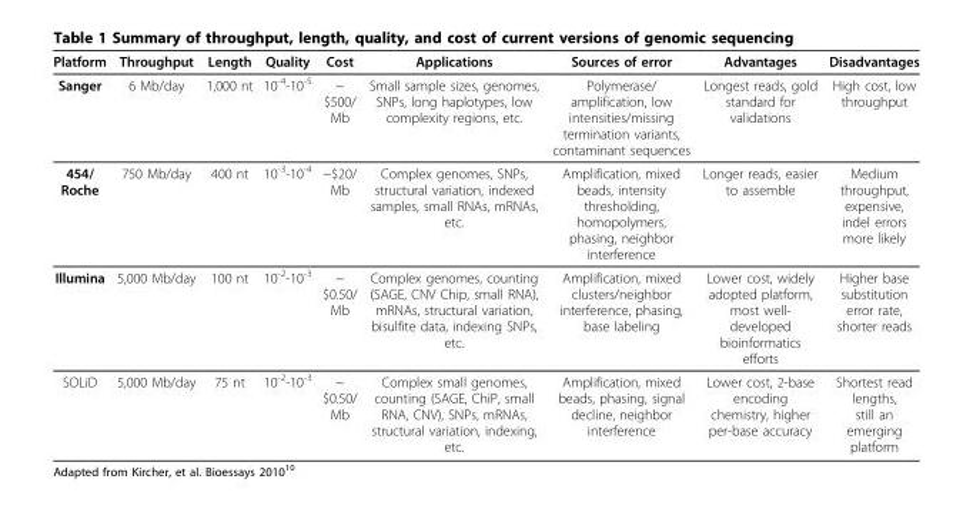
<table><thead><tr><td>Platform</td><td>Throughput</td><td>Length</td><td>Quality</td><td>Cost</td><td>Applications</td><td>Sources of error</td><td>Advantages</td><td>Disadvantages</td></tr></thead><tbody><tr><td>Sanger</td><td>6 Mb/day</td><td>1,000 nt</td><td>10<sup>-4</sup>-10<sup>-5</sup></td><td>~ $500/ Mb</td><td>Small sample sizes, genomes, SNPs, long haplotypes, low complexity regions, etc.</td><td>Polymerase/ amplification, low intensities/missing termination variants, contaminant sequences</td><td>Longest reads, gold standard for validations</td><td>High cost, low throughput</td></tr><tr><td>454/ Roche</td><td>750 Mb/day</td><td>400 nt</td><td>10<sup>-3</sup>-10<sup>-4</sup></td><td>~$20/ Mb</td><td>Complex genomes, SNPs, structural variation, indexed samples, small RNAs, mRNAs, etc.</td><td>Amplification, mixed beads, intensity thresholding, homopolymers, phasing, neighbor interference</td><td>Longer reads, easier to assemble</td><td>Medium throughput, expensive, indel errors more likely</td></tr><tr><td>Illumina</td><td>5,000 Mb/day</td><td>100 nt</td><td>10<sup>-2</sup>-10<sup>-3</sup></td><td>~ $0.50/ Mb</td><td>Complex genomes, counting (SAGE, CNV Chip, small RNA), mRNAs, structural variation, bisulfite data, indexing SNPs, etc.</td><td>Amplification, mixed clusters/neighbor interference, phasing, base labeling</td><td>Lower cost, widely adopted platform, most well- developed bioinformatics efforts</td><td>Higher base substitution error rate, shorter reads</td></tr><tr><td>SOLiD</td><td>5,000 Mb/day</td><td>75 nt</td><td>10<sup>-2</sup>-10<sup>-3</sup></td><td>~ $0.50/ Mb</td><td>Complex small genomes, counting (SAGE, ChiP, small RNA, CNV), SNPs, mRNAs, structural variation, indexing, etc.</td><td>Amplification, mixed beads, phasing, signal decline, neighbor interference</td><td>Lower cost, 2-base encoding chemistry, higher per-base accuracy</td><td>Shortest read lengths, still an emerging platform</td></tr></tbody></table>